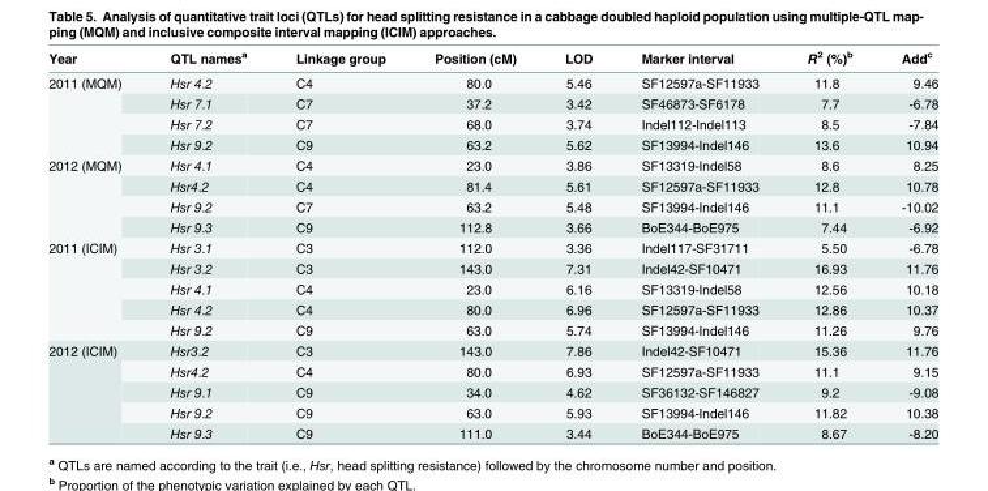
<table><thead><tr><td>Year</td><td>QTL names<sup>a</sup></td><td>Linkage group</td><td>Position (cM)</td><td>LOD</td><td>Marker interval</td><td>R<sup>2</sup> (%)<sup>b</sup></td><td>Add<sup>c</sup></td></tr></thead><tbody><tr><td rowspan="4">2011 (MQM)</td><td>Hsr 4.2</td><td>C4</td><td>80.0</td><td>5.46</td><td>SF12597a-SF11933</td><td>11.8</td><td>9.46</td></tr><tr><td>Hsr 7.1</td><td>C7</td><td>37.2</td><td>3.42</td><td>SF46873-SF6178</td><td>7.7</td><td>-6.78</td></tr><tr><td>Hsr 7.2</td><td>C7</td><td>68.0</td><td>3.74</td><td>Indel112-Indel113</td><td>8.5</td><td>-7.84</td></tr><tr><td>Hsr 9.2</td><td>C9</td><td>63.2</td><td>5.62</td><td>SF13994-Indel146</td><td>13.6</td><td>10.94</td></tr><tr><td rowspan="4">2012 (MQM)</td><td>Hsr 4.1</td><td>C4</td><td>23.0</td><td>3.86</td><td>SF13319-Indel58</td><td>8.6</td><td>8.25</td></tr><tr><td>Hsr4.2</td><td>C4</td><td>81.4</td><td>5.61</td><td>SF12597a-SF11933</td><td>12.8</td><td>10.78</td></tr><tr><td>Hsr 9.2</td><td>C7</td><td>63.2</td><td>5.48</td><td>SF13994-Indel146</td><td>11.1</td><td>-10.02</td></tr><tr><td>Hsr 9.3</td><td>C9</td><td>112.8</td><td>3.66</td><td>BoE344-BoE975</td><td>7.44</td><td>-6.92</td></tr><tr><td rowspan="5">2011 (ICIM)</td><td>Hsr 3.1</td><td>C3</td><td>112.0</td><td>3.36</td><td>Indel117-SF31711</td><td>5.50</td><td>-6.78</td></tr><tr><td>Hsr 3.2</td><td>C3</td><td>143.0</td><td>7.31</td><td>Indel42-SF10471</td><td>16.93</td><td>11.76</td></tr><tr><td>Hsr 4.1</td><td>C4</td><td>23.0</td><td>6.16</td><td>SF13319-Indel58</td><td>12.56</td><td>10.18</td></tr><tr><td>Hsr 4.2</td><td>C4</td><td>80.0</td><td>6.96</td><td>SF12597a-SF11933</td><td>12.86</td><td>10.37</td></tr><tr><td>Hsr 9.2</td><td>C9</td><td>63.0</td><td>5.74</td><td>SF13994-Indel146</td><td>11.26</td><td>9.76</td></tr><tr><td rowspan="5">2012 (ICIM)</td><td>Hsr3.2</td><td>C3</td><td>143.0</td><td>7.86</td><td>Indel42-SF10471</td><td>15.36</td><td>11.76</td></tr><tr><td>Hsr4.2</td><td>C4</td><td>80.0</td><td>6.93</td><td>SF12597a-SF11933</td><td>11.1</td><td>9.15</td></tr><tr><td>Hsr 9.1</td><td>C9</td><td>34.0</td><td>4.62</td><td>SF36132-SF146827</td><td>9.2</td><td>-9.08</td></tr><tr><td>Hsr 9.2</td><td>C9</td><td>63.0</td><td>5.93</td><td>SF13994-Indel146</td><td>11.82</td><td>10.38</td></tr><tr><td>Hsr 9.3</td><td>C9</td><td>111.0</td><td>3.44</td><td>BoE344-BoE975</td><td>8.67</td><td>-8.20</td></tr></tbody></table>